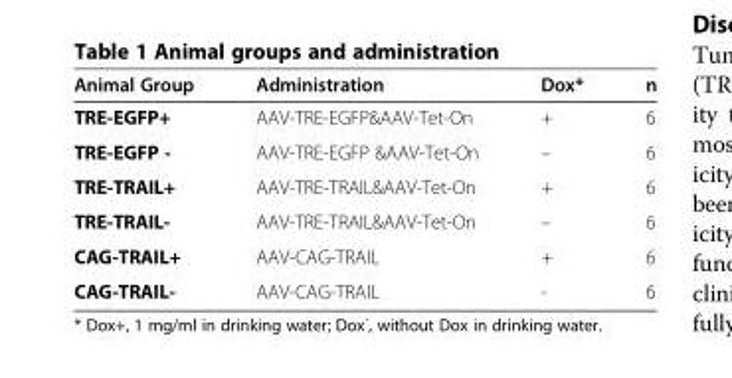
<table><thead><tr><td>Animal Group</td><td>Administration</td><td>Dox*</td><td>n</td></tr></thead><tbody><tr><td>TRE-EGFP+</td><td>AAV-TRE-EGFP&amp;AAV-Tet-On</td><td>+</td><td>6</td></tr><tr><td>TRE-EGFP -</td><td>AAV-TRE-EGFP &amp;AAV-Tet-On</td><td>–</td><td>6</td></tr><tr><td>TRE-TRAIL+</td><td>AAV-TRE-TRAIL&amp;AAV-Tet-On</td><td>+</td><td>6</td></tr><tr><td>TRE-TRAIL-</td><td>AAV-TRE-TRAIL&amp;AAV-Tet-On</td><td>–</td><td>6</td></tr><tr><td>CAG-TRAIL+</td><td>AAV-CAG-TRAIL</td><td>+</td><td>6</td></tr><tr><td>CAG-TRAIL-</td><td>AAV-CAG-TRAIL</td><td>-</td><td>6</td></tr></tbody></table>